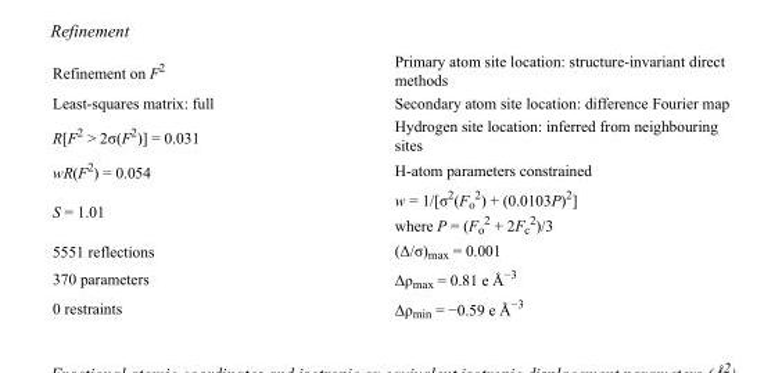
<table><tbody><tr><td>Refinement on F<sup>2</sup></td><td>Primary atom site location: structure-invariant direct methods</td></tr><tr><td>Least-squares matrix: full</td><td>Secondary atom site location: difference Fourier map</td></tr><tr><td>R[F<sup>2</sup> &gt; 2σ(F<sup>2</sup>)] = 0.031</td><td>Hydrogen site location: inferred from neighbouring sites</td></tr><tr><td>wR(F<sup>2</sup>) = 0.054</td><td>H-atom parameters constrained</td></tr><tr><td>S = 1.01</td><td>w = 1/[σ<sup>2</sup>(F<sub>o</sub> <sup>2</sup>) + (0.0103P)<sup>2</sup>] where P = (F<sub>o</sub> <sup>2</sup> + 2F<sub>c</sub> <sup>2</sup>)/3</td></tr><tr><td>5551 reflections</td><td>(Δ/σ)<sub>max</sub> = 0.001</td></tr><tr><td>370 parameters</td><td>Δρ<sub>max</sub> = 0.81 e Å<sup>−3</sup></td></tr><tr><td>0 restraints</td><td>Δρ<sub>min</sub> = −0.59 e Å<sup>−3</sup></td></tr></tbody></table>